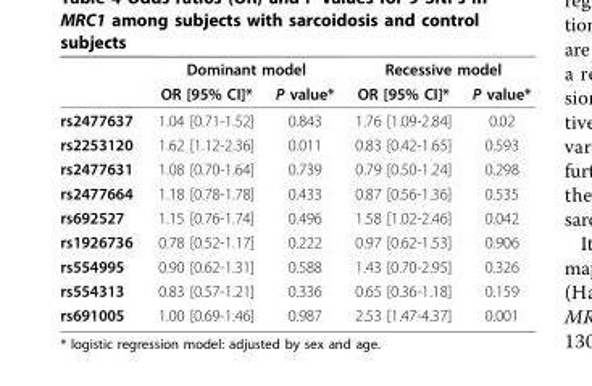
<table><thead><tr><td rowspan="2"></td><td colspan="2">Dominant model</td><td colspan="2">Recessive model</td></tr><tr><td>OR [95% CI]*</td><td>P value*</td><td>OR [95% CI]*</td><td>P value*</td></tr></thead><tbody><tr><td>rs2477637</td><td>1.04 [0.71-1.52]</td><td>0.843</td><td>1.76 [1.09-2.84]</td><td>0.02</td></tr><tr><td>rs2253120</td><td>1.62 [1.12-2.36]</td><td>0.011</td><td>0.83 [0.42-1.65]</td><td>0.593</td></tr><tr><td>rs2477631</td><td>1.08 [0.70-1.64]</td><td>0.739</td><td>0.79 [0.50-1.24]</td><td>0.298</td></tr><tr><td>rs2477664</td><td>1.18 [0.78-1.78]</td><td>0.433</td><td>0.87 [0.56-1.36]</td><td>0.535</td></tr><tr><td>rs692527</td><td>1.15 [0.76-1.74]</td><td>0.496</td><td>1.58 [1.02-2.46]</td><td>0.042</td></tr><tr><td>rs1926736</td><td>0.78 [0.52-1.17]</td><td>0.222</td><td>0.97 [0.62-1.53]</td><td>0.906</td></tr><tr><td>rs554995</td><td>0.90 [0.62-1.31]</td><td>0.588</td><td>1.43 [0.70-2.95]</td><td>0.326</td></tr><tr><td>rs554313</td><td>0.83 [0.57-1.21]</td><td>0.336</td><td>0.65 [0.36-1.18]</td><td>0.159</td></tr><tr><td>rs691005</td><td>1.00 [0.69-1.46]</td><td>0.987</td><td>2.53 [1.47-4.37]</td><td>0.001</td></tr></tbody></table>